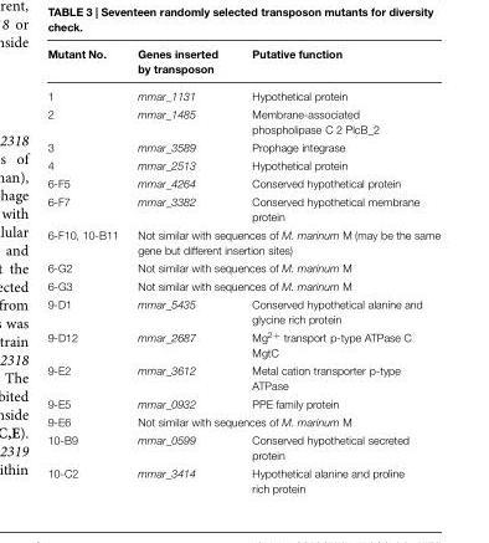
<table><thead><tr><td>Mutant No.</td><td>Genes inserted by transposon</td><td>Putative function</td></tr></thead><tbody><tr><td>1</td><td>mmar_1131</td><td>Hypothetical protein</td></tr><tr><td>2</td><td>mmar_1485</td><td>Membrane-associated phospholipase C 2 PlcB_2</td></tr><tr><td>3</td><td>mmar_3589</td><td>Prophage integrase</td></tr><tr><td>4</td><td>mmar_2513</td><td>Hypothetical protein</td></tr><tr><td>6-F5</td><td>mmar_4264</td><td>Conserved hypothetical protein</td></tr><tr><td>6-F7</td><td>mmar_3382</td><td>Conserved hypothetical membrane protein</td></tr><tr><td>6-F10, 10-B11</td><td colspan="2">Not similar with sequences of M. marinum M (may be the same gene but different insertion sites)</td></tr><tr><td>6-G2</td><td colspan="2">Not similar with sequences of M. marinum M</td></tr><tr><td>6-G3</td><td colspan="2">Not similar with sequences of M. marinum M</td></tr><tr><td>9-D1</td><td>mmar_5435</td><td>Conserved hypothetical alanine and glycine rich protein</td></tr><tr><td>9-D12</td><td>mmar_2687</td><td>Mg<sup>2+</sup> transport p-type ATPase C MgtC</td></tr><tr><td>9-E2</td><td>mmar_3612</td><td>Metal cation transporter p-type ATPase</td></tr><tr><td>9-E5</td><td>mmar_0932</td><td>PPE family protein</td></tr><tr><td>9-E6</td><td colspan="2">Not similar with sequences of M. marinum M</td></tr><tr><td>10-B9</td><td>mmar_0599</td><td>Conserved hypothetical secreted protein</td></tr><tr><td>10-C2</td><td>mmar_3414</td><td>Hypothetical alanine and proline rich protein</td></tr></tbody></table>